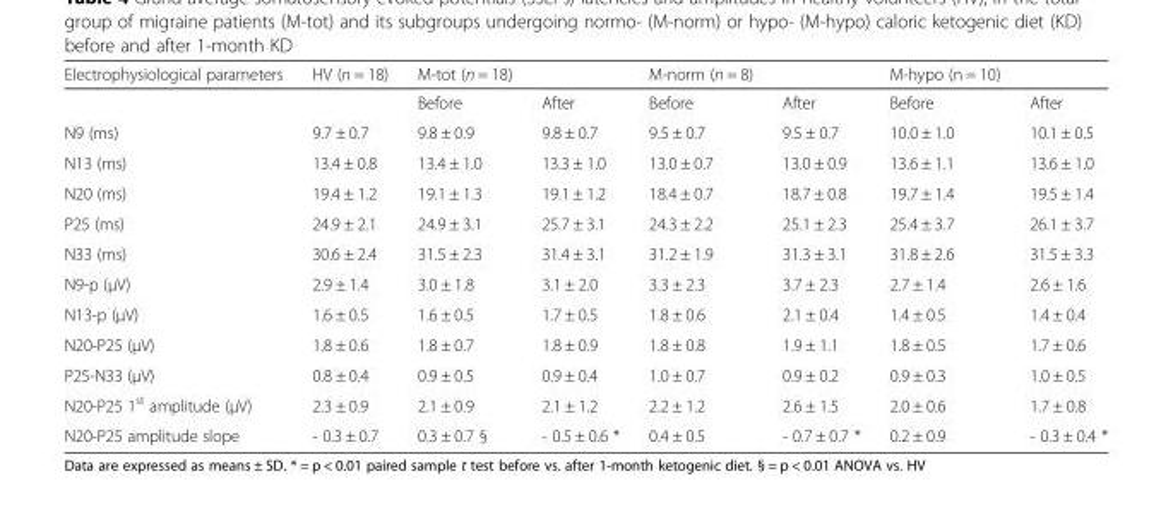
<table><thead><tr><td>Electrophysiological parameters</td><td>HV (n = 18)</td><td>M-tot (n = 18)</td><td></td><td>M-norm (n = 8)</td><td></td><td>M-hypo (n = 10)</td><td></td></tr></thead><tbody><tr><td></td><td></td><td>Before</td><td>After</td><td>Before</td><td>After</td><td>Before</td><td>After</td></tr><tr><td>N9 (ms)</td><td>9.7 ± 0.7</td><td>9.8 ± 0.9</td><td>9.8 ± 0.7</td><td>9.5 ± 0.7</td><td>9.5 ± 0.7</td><td>10.0 ± 1.0</td><td>10.1 ± 0.5</td></tr><tr><td>N13 (ms)</td><td>13.4 ± 0.8</td><td>13.4 ± 1.0</td><td>13.3 ± 1.0</td><td>13.0 ± 0.7</td><td>13.0 ± 0.9</td><td>13.6 ± 1.1</td><td>13.6 ± 1.0</td></tr><tr><td>N20 (ms)</td><td>19.4 ± 1.2</td><td>19.1 ± 1.3</td><td>19.1 ± 1.2</td><td>18.4 ± 0.7</td><td>18.7 ± 0.8</td><td>19.7 ± 1.4</td><td>19.5 ± 1.4</td></tr><tr><td>P25 (ms)</td><td>24.9 ± 2.1</td><td>24.9 ± 3.1</td><td>25.7 ± 3.1</td><td>24.3 ± 2.2</td><td>25.1 ± 2.3</td><td>25.4 ± 3.7</td><td>26.1 ± 3.7</td></tr><tr><td>N33 (ms)</td><td>30.6 ± 2.4</td><td>31.5 ± 2.3</td><td>31.4 ± 3.1</td><td>31.2 ± 1.9</td><td>31.3 ± 3.1</td><td>31.8 ± 2.6</td><td>31.5 ± 3.3</td></tr><tr><td>N9-p (μV)</td><td>2.9 ± 1.4</td><td>3.0 ± 1.8</td><td>3.1 ± 2.0</td><td>3.3 ± 2.3</td><td>3.7 ± 2.3</td><td>2.7 ± 1.4</td><td>2.6 ± 1.6</td></tr><tr><td>N13-p (μV)</td><td>1.6 ± 0.5</td><td>1.6 ± 0.5</td><td>1.7 ± 0.5</td><td>1.8 ± 0.6</td><td>2.1 ± 0.4</td><td>1.4 ± 0.5</td><td>1.4 ± 0.4</td></tr><tr><td>N20-P25 (μV)</td><td>1.8 ± 0.6</td><td>1.8 ± 0.7</td><td>1.8 ± 0.9</td><td>1.8 ± 0.8</td><td>1.9 ± 1.1</td><td>1.8 ± 0.5</td><td>1.7 ± 0.6</td></tr><tr><td>P25-N33 (μV)</td><td>0.8 ± 0.4</td><td>0.9 ± 0.5</td><td>0.9 ± 0.4</td><td>1.0 ± 0.7</td><td>0.9 ± 0.2</td><td>0.9 ± 0.3</td><td>1.0 ± 0.5</td></tr><tr><td>N20-P25 1<sup>st</sup> amplitude (μV)</td><td>2.3 ± 0.9</td><td>2.1 ± 0.9</td><td>2.1 ± 1.2</td><td>2.2 ± 1.2</td><td>2.6 ± 1.5</td><td>2.0 ± 0.6</td><td>1.7 ± 0.8</td></tr><tr><td>N20-P25 amplitude slope</td><td>- 0.3 ± 0.7</td><td>0.3 ± 0.7 §</td><td>- 0.5 ± 0.6 *</td><td>0.4 ± 0.5</td><td>- 0.7 ± 0.7 *</td><td>0.2 ± 0.9</td><td>- 0.3 ± 0.4 *</td></tr></tbody></table>